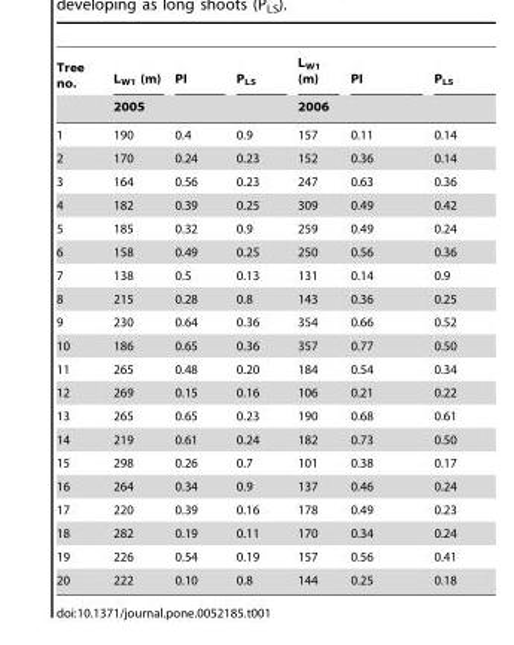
<table><thead><tr><td rowspan="2">Tree no.</td><td>L<sub>W1</sub> (m)</td><td>PI</td><td>P<sub>LS</sub></td><td>L<sub>W1</sub> (m)</td><td>PI</td><td>P<sub>LS</sub></td></tr><tr><td colspan="3">2005</td><td colspan="3">2006</td></tr></thead><tbody><tr><td>1</td><td>190</td><td>0.4</td><td>0.9</td><td>157</td><td>0.11</td><td>0.14</td></tr><tr><td>2</td><td>170</td><td>0.24</td><td>0.23</td><td>152</td><td>0.36</td><td>0.14</td></tr><tr><td>3</td><td>164</td><td>0.56</td><td>0.23</td><td>247</td><td>0.63</td><td>0.36</td></tr><tr><td>4</td><td>182</td><td>0.39</td><td>0.25</td><td>309</td><td>0.49</td><td>0.42</td></tr><tr><td>5</td><td>185</td><td>0.32</td><td>0.9</td><td>259</td><td>0.49</td><td>0.24</td></tr><tr><td>6</td><td>158</td><td>0.49</td><td>0.25</td><td>250</td><td>0.56</td><td>0.36</td></tr><tr><td>7</td><td>138</td><td>0.5</td><td>0.13</td><td>131</td><td>0.14</td><td>0.9</td></tr><tr><td>8</td><td>215</td><td>0.28</td><td>0.8</td><td>143</td><td>0.36</td><td>0.25</td></tr><tr><td>9</td><td>230</td><td>0.64</td><td>0.36</td><td>354</td><td>0.66</td><td>0.52</td></tr><tr><td>10</td><td>186</td><td>0.65</td><td>0.36</td><td>357</td><td>0.77</td><td>0.50</td></tr><tr><td>11</td><td>265</td><td>0.48</td><td>0.20</td><td>184</td><td>0.54</td><td>0.34</td></tr><tr><td>12</td><td>269</td><td>0.15</td><td>0.16</td><td>106</td><td>0.21</td><td>0.22</td></tr><tr><td>13</td><td>265</td><td>0.65</td><td>0.23</td><td>190</td><td>0.68</td><td>0.61</td></tr><tr><td>14</td><td>219</td><td>0.61</td><td>0.24</td><td>182</td><td>0.73</td><td>0.50</td></tr><tr><td>15</td><td>298</td><td>0.26</td><td>0.7</td><td>101</td><td>0.38</td><td>0.17</td></tr><tr><td>16</td><td>264</td><td>0.34</td><td>0.9</td><td>137</td><td>0.46</td><td>0.24</td></tr><tr><td>17</td><td>220</td><td>0.39</td><td>0.16</td><td>178</td><td>0.49</td><td>0.23</td></tr><tr><td>18</td><td>282</td><td>0.19</td><td>0.11</td><td>170</td><td>0.34</td><td>0.24</td></tr><tr><td>19</td><td>226</td><td>0.54</td><td>0.19</td><td>157</td><td>0.56</td><td>0.41</td></tr><tr><td>20</td><td>222</td><td>0.10</td><td>0.8</td><td>144</td><td>0.25</td><td>0.18</td></tr></tbody></table>